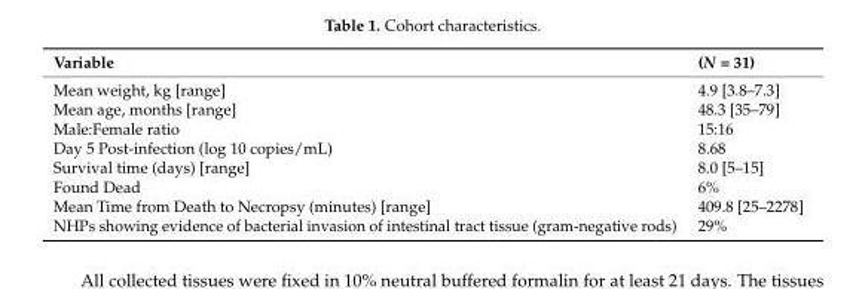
<table><thead><tr><td>Variable</td><td>(N = 31)</td></tr></thead><tbody><tr><td>Mean weight, kg [range]</td><td>4.9 [3.8–7.3]</td></tr><tr><td>Mean age, months [range]</td><td>48.3 [35–79]</td></tr><tr><td>Male:Female ratio</td><td>15:16</td></tr><tr><td>Day 5 Post-infection (log 10 copies/mL)</td><td>8.68</td></tr><tr><td>Survival time (days) [range]</td><td>8.0 [5–15]</td></tr><tr><td>Found Dead</td><td>6%</td></tr><tr><td>Mean Time from Death to Necropsy (minutes) [range]</td><td>409.8 [25–2278]</td></tr><tr><td>NHPs showing evidence of bacterial invasion of intestinal tract tissue (gram-negative rods)</td><td>29%</td></tr></tbody></table>